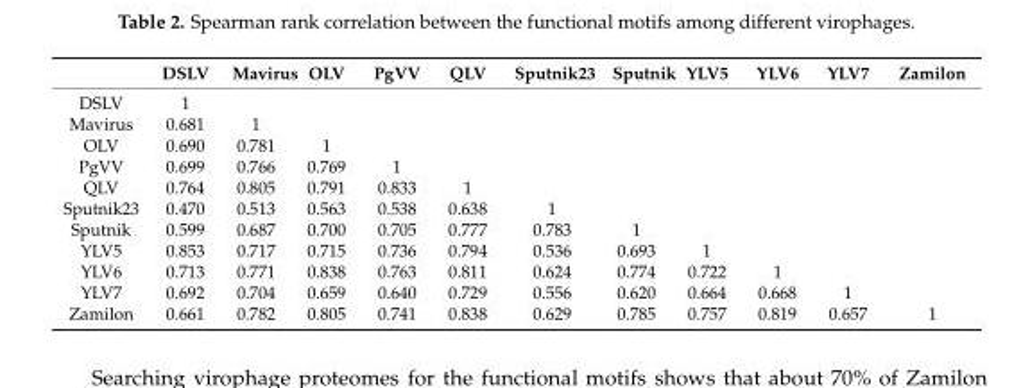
<table><thead><tr><td></td><td>DSLV</td><td>Mavirus</td><td>OLV</td><td>PgVV</td><td>QLV</td><td>Sputnik23</td><td>Sputnik</td><td>YLV5</td><td>YLV6</td><td>YLV7</td><td>Zamilon</td></tr></thead><tbody><tr><td>DSLV</td><td>1</td><td></td><td></td><td></td><td></td><td></td><td></td><td></td><td></td><td></td><td></td></tr><tr><td>Mavirus</td><td>0.681</td><td>1</td><td></td><td></td><td></td><td></td><td></td><td></td><td></td><td></td><td></td></tr><tr><td>OLV</td><td>0.690</td><td>0.781</td><td>1</td><td></td><td></td><td></td><td></td><td></td><td></td><td></td><td></td></tr><tr><td>PgVV</td><td>0.699</td><td>0.766</td><td>0.769</td><td>1</td><td></td><td></td><td></td><td></td><td></td><td></td><td></td></tr><tr><td>QLV</td><td>0.764</td><td>0.805</td><td>0.791</td><td>0.833</td><td>1</td><td></td><td></td><td></td><td></td><td></td><td></td></tr><tr><td>Sputnik23</td><td>0.470</td><td>0.513</td><td>0.563</td><td>0.538</td><td>0.638</td><td>1</td><td></td><td></td><td></td><td></td><td></td></tr><tr><td>Sputnik</td><td>0.599</td><td>0.687</td><td>0.700</td><td>0.705</td><td>0.777</td><td>0.783</td><td>1</td><td></td><td></td><td></td><td></td></tr><tr><td>YLV5</td><td>0.853</td><td>0.717</td><td>0.715</td><td>0.736</td><td>0.794</td><td>0.536</td><td>0.693</td><td>1</td><td></td><td></td><td></td></tr><tr><td>YLV6</td><td>0.713</td><td>0.771</td><td>0.838</td><td>0.763</td><td>0.811</td><td>0.624</td><td>0.774</td><td>0.722</td><td>1</td><td></td><td></td></tr><tr><td>YLV7</td><td>0.692</td><td>0.704</td><td>0.659</td><td>0.640</td><td>0.729</td><td>0.556</td><td>0.620</td><td>0.664</td><td>0.668</td><td>1</td><td></td></tr><tr><td>Zamilon</td><td>0.661</td><td>0.782</td><td>0.805</td><td>0.741</td><td>0.838</td><td>0.629</td><td>0.785</td><td>0.757</td><td>0.819</td><td>0.657</td><td>1</td></tr></tbody></table>